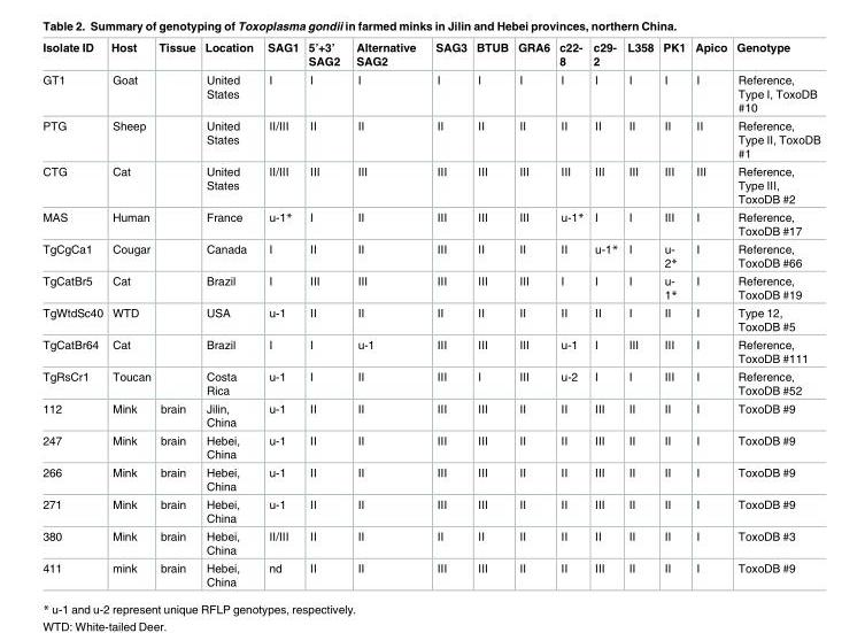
<table><thead><tr><td>Isolate ID</td><td>Host</td><td>Tissue</td><td>Location</td><td>SAG1</td><td>5’+3’ SAG2</td><td>Alternative SAG2</td><td>SAG3</td><td>BTUB</td><td>GRA6</td><td>c22- 8</td><td>c29- 2</td><td>L358</td><td>PK1</td><td>Apico</td><td>Genotype</td></tr></thead><tbody><tr><td>GT1</td><td>Goat</td><td></td><td>United States</td><td>I</td><td>I</td><td>I</td><td>I</td><td>I</td><td>I</td><td>I</td><td>I</td><td>I</td><td>I</td><td>I</td><td>Reference, Type I, ToxoDB #10</td></tr><tr><td>PTG</td><td>Sheep</td><td></td><td>United States</td><td>II/III</td><td>II</td><td>II</td><td>II</td><td>II</td><td>II</td><td>II</td><td>II</td><td>II</td><td>II</td><td>II</td><td>Reference, Type II, ToxoDB #1</td></tr><tr><td>CTG</td><td>Cat</td><td></td><td>United States</td><td>II/III</td><td>III</td><td>III</td><td>III</td><td>III</td><td>III</td><td>III</td><td>III</td><td>III</td><td>III</td><td>III</td><td>Reference, Type III, ToxoDB #2</td></tr><tr><td>MAS</td><td>Human</td><td></td><td>France</td><td>u-1*</td><td>I</td><td>II</td><td>III</td><td>III</td><td>III</td><td>u-1*</td><td>I</td><td>I</td><td>III</td><td>I</td><td>Reference, ToxoDB #17</td></tr><tr><td>TgCgCa1</td><td>Cougar</td><td></td><td>Canada</td><td>I</td><td>II</td><td>II</td><td>III</td><td>II</td><td>II</td><td>II</td><td>u-1*</td><td>I</td><td>u- 2*</td><td>I</td><td>Reference, ToxoDB #66</td></tr><tr><td>TgCatBr5</td><td>Cat</td><td></td><td>Brazil</td><td>I</td><td>III</td><td>III</td><td>III</td><td>III</td><td>III</td><td>I</td><td>I</td><td>I</td><td>u- 1*</td><td>I</td><td>Reference, ToxoDB #19</td></tr><tr><td>TgWtdSc40</td><td>WTD</td><td></td><td>USA</td><td>u-1</td><td>II</td><td>II</td><td>II</td><td>II</td><td>II</td><td>II</td><td>II</td><td>I</td><td>II</td><td>I</td><td>Type 12, ToxoDB #5</td></tr><tr><td>TgCatBr64</td><td>Cat</td><td></td><td>Brazil</td><td>I</td><td>I</td><td>u-1</td><td>III</td><td>III</td><td>III</td><td>u-1</td><td>I</td><td>III</td><td>III</td><td>I</td><td>Reference, ToxoDB #111</td></tr><tr><td>TgRsCr1</td><td>Toucan</td><td></td><td>Costa Rica</td><td>u-1</td><td>I</td><td>II</td><td>III</td><td>I</td><td>III</td><td>u-2</td><td>I</td><td>I</td><td>III</td><td>I</td><td>Reference, ToxoDB #52</td></tr><tr><td>112</td><td>Mink</td><td>brain</td><td>Jilin, China</td><td>u-1</td><td>II</td><td>II</td><td>III</td><td>III</td><td>II</td><td>II</td><td>III</td><td>II</td><td>II</td><td>I</td><td>ToxoDB #9</td></tr><tr><td>247</td><td>Mink</td><td>brain</td><td>Hebei, China</td><td>u-1</td><td>II</td><td>II</td><td>III</td><td>III</td><td>II</td><td>II</td><td>III</td><td>II</td><td>II</td><td>I</td><td>ToxoDB #9</td></tr><tr><td>266</td><td>Mink</td><td>brain</td><td>Hebei, China</td><td>u-1</td><td>II</td><td>II</td><td>III</td><td>III</td><td>II</td><td>II</td><td>III</td><td>II</td><td>II</td><td>I</td><td>ToxoDB #9</td></tr><tr><td>271</td><td>Mink</td><td>brain</td><td>Hebei, China</td><td>u-1</td><td>II</td><td>II</td><td>III</td><td>III</td><td>II</td><td>II</td><td>III</td><td>II</td><td>II</td><td>I</td><td>ToxoDB #9</td></tr><tr><td>380</td><td>Mink</td><td>brain</td><td>Hebei, China</td><td>II/III</td><td>II</td><td>II</td><td>II</td><td>II</td><td>II</td><td>II</td><td>II</td><td>II</td><td>II</td><td>I</td><td>ToxoDB #3</td></tr><tr><td>411</td><td>mink</td><td>brain</td><td>Hebei, China</td><td>nd</td><td>II</td><td>II</td><td>III</td><td>III</td><td>II</td><td>II</td><td>III</td><td>II</td><td>II</td><td>I</td><td>ToxoDB #9</td></tr></tbody></table>